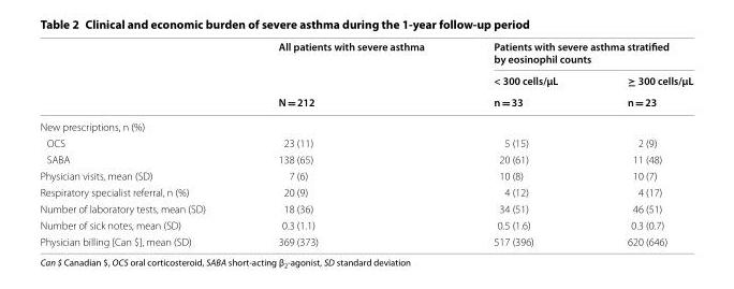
<table><thead><tr><td rowspan="3"></td><td rowspan="3">All patients with severe asthma N = 212</td><td colspan="2">Patients with severe asthma stratified by eosinophil counts</td></tr><tr><td rowspan="2">&lt; 300 cells/µL n = 33</td><td rowspan="2">≥ 300 cells/µL n = 23</td></tr><tr></tr></thead><tbody><tr><td colspan="4">New prescriptions, n (%)</td></tr><tr><td>OCS</td><td>23 (11)</td><td>5 (15)</td><td>2 (9)</td></tr><tr><td>SABA</td><td>138 (65)</td><td>20 (61)</td><td>11 (48)</td></tr><tr><td>Physician visits, mean (SD)</td><td>7 (6)</td><td>10 (8)</td><td>10 (7)</td></tr><tr><td>Respiratory specialist referral, n (%)</td><td>20 (9)</td><td>4 (12)</td><td>4 (17)</td></tr><tr><td>Number of laboratory tests, mean (SD)</td><td>18 (36)</td><td>34 (51)</td><td>46 (51)</td></tr><tr><td>Number of sick notes, mean (SD)</td><td>0.3 (1.1)</td><td>0.5 (1.6)</td><td>0.3 (0.7)</td></tr><tr><td>Physician billing [Can $], mean (SD)</td><td>369 (373)</td><td>517 (396)</td><td>620 (646)</td></tr></tbody></table>